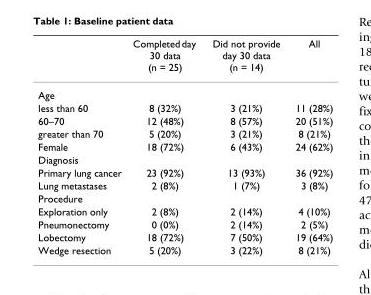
<table><thead><tr><td></td><td>Completed day 30 data (n = 25)</td><td>Did not provide day 30 data (n = 14)</td><td>All</td></tr></thead><tbody><tr><td colspan="4">Age</td></tr><tr><td>less than 60</td><td>8 (32%)</td><td>3 (21%)</td><td>11 (28%)</td></tr><tr><td>60–70</td><td>12 (48%)</td><td>8 (57%)</td><td>20 (51%)</td></tr><tr><td>greater than 70</td><td>5 (20%)</td><td>3 (21%)</td><td>8 (21%)</td></tr><tr><td>Female</td><td>18 (72%)</td><td>6 (43%)</td><td>24 (62%)</td></tr><tr><td colspan="4">Diagnosis</td></tr><tr><td>Primary lung cancer</td><td>23 (92%)</td><td>13 (93%)</td><td>36 (92%)</td></tr><tr><td>Lung metastases</td><td>2 (8%)</td><td>1 (7%)</td><td>3 (8%)</td></tr><tr><td colspan="4">Procedure</td></tr><tr><td>Exploration only</td><td>2 (8%)</td><td>2 (14%)</td><td>4 (10%)</td></tr><tr><td>Pneumonectomy</td><td>0 (0%)</td><td>2 (14%)</td><td>2 (5%)</td></tr><tr><td>Lobectomy</td><td>18 (72%)</td><td>7 (50%)</td><td>19 (64%)</td></tr><tr><td>Wedge resection</td><td>5 (20%)</td><td>3 (22%)</td><td>8 (21%)</td></tr></tbody></table>